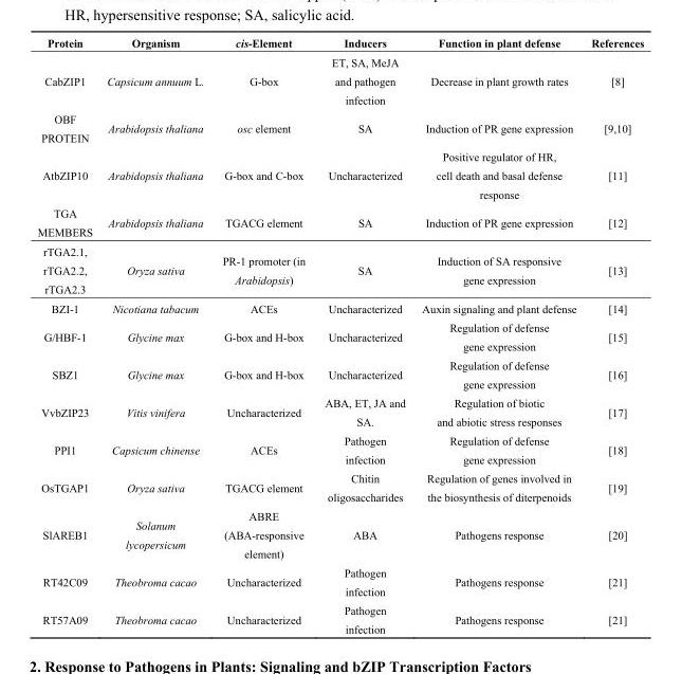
<table><thead><tr><td>Protein</td><td>Organism</td><td>cis-Element</td><td>Inducers</td><td>Function in plant defense</td><td>References</td></tr></thead><tbody><tr><td>CabZIP1</td><td>Capsicum annuum L.</td><td>G-box</td><td>ET, SA, MeJA and pathogen infection</td><td>Decrease in plant growth rates</td><td>[8]</td></tr><tr><td>OBF PROTEIN</td><td>Arabidopsis thaliana</td><td>osc element</td><td>SA</td><td>Induction of PR gene expression</td><td>[9,10]</td></tr><tr><td>AtbZIP10</td><td>Arabidopsis thaliana</td><td>G-box and C-box</td><td>Uncharacterized</td><td>Positive regulator of HR, cell death and basal defense response</td><td>[11]</td></tr><tr><td>TGA MEMBERS</td><td>Arabidopsis thaliana</td><td>TGACG element</td><td>SA</td><td>Induction of PR gene expression</td><td>[12]</td></tr><tr><td>rTGA2.1, rTGA2.2, rTGA2.3</td><td>Oryza sativa</td><td>PR-1 promoter (in Arabidopsis)</td><td>SA</td><td>Induction of SA responsive gene expression</td><td>[13]</td></tr><tr><td>BZI-1</td><td>Nicotiana tabacum</td><td>ACEs</td><td>Uncharacterized</td><td>Auxin signaling and plant defense</td><td>[14]</td></tr><tr><td>G/HBF-1</td><td>Glycine max</td><td>G-box and H-box</td><td>Uncharacterized</td><td>Regulation of defense gene expression</td><td>[15]</td></tr><tr><td>SBZ1</td><td>Glycine max</td><td>G-box and H-box</td><td>Uncharacterized</td><td>Regulation of defense gene expression</td><td>[16]</td></tr><tr><td>VvbZIP23</td><td>Vitis vinifera</td><td>Uncharacterized</td><td>ABA, ET, JA and SA.</td><td>Regulation of biotic and abiotic stress responses</td><td>[17]</td></tr><tr><td>PPI1</td><td>Capsicum chinense</td><td>ACEs</td><td>Pathogen infection</td><td>Regulation of defense gene expression</td><td>[18]</td></tr><tr><td>OsTGAP1</td><td>Oryza sativa</td><td>TGACG element</td><td>Chitin oligosaccharides</td><td>Regulation of genes involved in the biosynthesis of diterpenoids</td><td>[19]</td></tr><tr><td>SlAREB1</td><td>Solanum lycopersicum</td><td>ABRE (ABA-responsive element)</td><td>ABA</td><td>Pathogens response</td><td>[20]</td></tr><tr><td>RT42C09</td><td>Theobroma cacao</td><td>Uncharacterized</td><td>Pathogen infection</td><td>Pathogens response</td><td>[21]</td></tr><tr><td>RT57A09</td><td>Theobroma cacao</td><td>Uncharacterized</td><td>Pathogen infection</td><td>Pathogens response</td><td>[21]</td></tr></tbody></table>